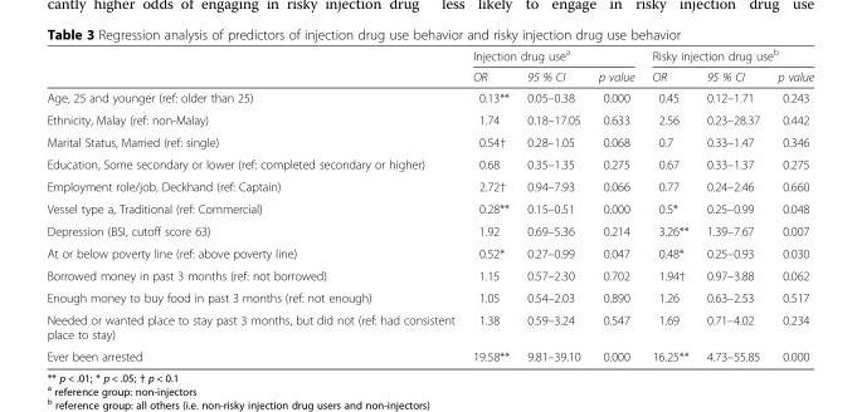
<table><thead><tr><td rowspan="2"></td><td colspan="3">Injection drug use<sup>a</sup></td><td colspan="3">Risky injection drug use<sup>b</sup></td></tr><tr><td>OR</td><td>95 % CI</td><td>p value</td><td>OR</td><td>95 % CI</td><td>p value</td></tr></thead><tbody><tr><td>Age, 25 and younger (ref: older than 25)</td><td>0.13**</td><td>0.05–0.38</td><td>0.000</td><td>0.45</td><td>0.12–1.71</td><td>0.243</td></tr><tr><td>Ethnicity, Malay (ref: non-Malay)</td><td>1.74</td><td>0.18–17.05</td><td>0.633</td><td>2.56</td><td>0.23–28.37</td><td>0.442</td></tr><tr><td>Marital Status, Married (ref: single)</td><td>0.54†</td><td>0.28–1.05</td><td>0.068</td><td>0.7</td><td>0.33–1.47</td><td>0.346</td></tr><tr><td>Education, Some secondary or lower (ref: completed secondary or higher)</td><td>0.68</td><td>0.35–1.35</td><td>0.275</td><td>0.67</td><td>0.33–1.37</td><td>0.275</td></tr><tr><td>Employment role/job, Deckhand (ref: Captain)</td><td>2.72†</td><td>0.94–7.93</td><td>0.066</td><td>0.77</td><td>0.24–2.46</td><td>0.660</td></tr><tr><td>Vessel type a, Traditional (ref: Commercial)</td><td>0.28**</td><td>0.15–0.51</td><td>0.000</td><td>0.5*</td><td>0.25–0.99</td><td>0.048</td></tr><tr><td>Depression (BSI, cutoff score 63)</td><td>1.92</td><td>0.69–5.36</td><td>0.214</td><td>3.26**</td><td>1.39–7.67</td><td>0.007</td></tr><tr><td>At or below poverty line (ref: above poverty line)</td><td>0.52*</td><td>0.27–0.99</td><td>0.047</td><td>0.48*</td><td>0.25–0.93</td><td>0.030</td></tr><tr><td>Borrowed money in past 3 months (ref: not borrowed)</td><td>1.15</td><td>0.57–2.30</td><td>0.702</td><td>1.94†</td><td>0.97–3.88</td><td>0.062</td></tr><tr><td>Enough money to buy food in past 3 months (ref: not enough)</td><td>1.05</td><td>0.54–2.03</td><td>0.890</td><td>1.26</td><td>0.63–2.53</td><td>0.517</td></tr><tr><td>Needed or wanted place to stay past 3 months, but did not (ref: had consistent place to stay)</td><td>1.38</td><td>0.59–3.24</td><td>0.547</td><td>1.69</td><td>0.71–4.02</td><td>0.234</td></tr><tr><td>Ever been arrested</td><td>19.58**</td><td>9.81–39.10</td><td>0.000</td><td>16.25**</td><td>4.73–55.85</td><td>0.000</td></tr></tbody></table>